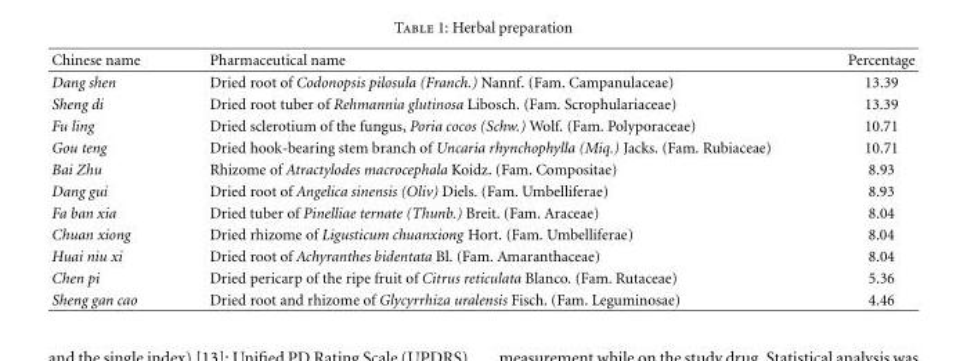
<table><thead><tr><td>Chinese name</td><td>Pharmaceutical name</td><td>Percentage</td></tr></thead><tbody><tr><td>Dang shen</td><td>Dried root of Codonopsis pilosula (Franch.) Nannf. (Fam. Campanulaceae)</td><td>13.39</td></tr><tr><td>Sheng di</td><td>Dried root tuber of Rehmannia glutinosa Libosch. (Fam. Scrophulariaceae)</td><td>13.39</td></tr><tr><td>Fu ling</td><td>Dried sclerotium of the fungus, Poria cocos (Schw.) Wolf. (Fam. Polyporaceae)</td><td>10.71</td></tr><tr><td>Gou teng</td><td>Dried hook-bearing stem branch of Uncaria rhynchophylla (Miq.) Jacks. (Fam. Rubiaceae)</td><td>10.71</td></tr><tr><td>Bai Zhu</td><td>Rhizome of Atractylodes macrocephala Koidz. (Fam. Compositae)</td><td>8.93</td></tr><tr><td>Dang gui</td><td>Dried root of Angelica sinensis (Oliv) Diels. (Fam. Umbelliferae)</td><td>8.93</td></tr><tr><td>Fa ban xia</td><td>Dried tuber of Pinelliae ternate (Thunb.) Breit. (Fam. Araceae)</td><td>8.04</td></tr><tr><td>Chuan xiong</td><td>Dried rhizome of Ligusticum chuanxiong Hort. (Fam. Umbelliferae)</td><td>8.04</td></tr><tr><td>Huai niu xi</td><td>Dried root of Achyranthes bidentata Bl. (Fam. Amaranthaceae)</td><td>8.04</td></tr><tr><td>Chen pi</td><td>Dried pericarp of the ripe fruit of Citrus reticulata Blanco. (Fam. Rutaceae)</td><td>5.36</td></tr><tr><td>Sheng gan cao</td><td>Dried root and rhizome of Glycyrrhiza uralensis Fisch. (Fam. Leguminosae)</td><td>4.46</td></tr></tbody></table>